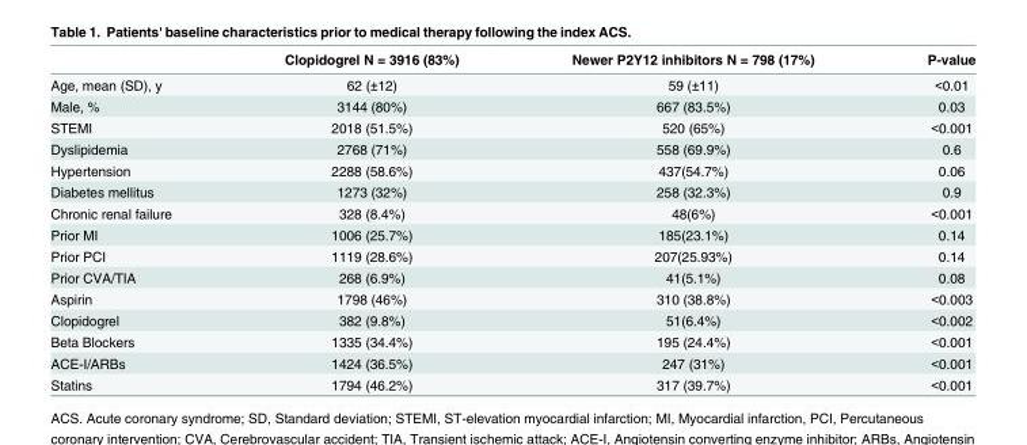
<table><thead><tr><td></td><td>Clopidogrel N = 3916 (83%)</td><td>Newer P2Y12 inhibitors N = 798 (17%)</td><td>P-value</td></tr></thead><tbody><tr><td>Age, mean (SD), y</td><td>62 (±12)</td><td>59 (±11)</td><td>&lt;0.01</td></tr><tr><td>Male, %</td><td>3144 (80%)</td><td>667 (83.5%)</td><td>0.03</td></tr><tr><td>STEMI</td><td>2018 (51.5%)</td><td>520 (65%)</td><td>&lt;0.001</td></tr><tr><td>Dyslipidemia</td><td>2768 (71%)</td><td>558 (69.9%)</td><td>0.6</td></tr><tr><td>Hypertension</td><td>2288 (58.6%)</td><td>437(54.7%)</td><td>0.06</td></tr><tr><td>Diabetes mellitus</td><td>1273 (32%)</td><td>258 (32.3%)</td><td>0.9</td></tr><tr><td>Chronic renal failure</td><td>328 (8.4%)</td><td>48(6%)</td><td>&lt;0.001</td></tr><tr><td>Prior MI</td><td>1006 (25.7%)</td><td>185(23.1%)</td><td>0.14</td></tr><tr><td>Prior PCI</td><td>1119 (28.6%)</td><td>207(25.93%)</td><td>0.14</td></tr><tr><td>Prior CVA/TIA</td><td>268 (6.9%)</td><td>41(5.1%)</td><td>0.08</td></tr><tr><td>Aspirin</td><td>1798 (46%)</td><td>310 (38.8%)</td><td>&lt;0.003</td></tr><tr><td>Clopidogrel</td><td>382 (9.8%)</td><td>51(6.4%)</td><td>&lt;0.002</td></tr><tr><td>Beta Blockers</td><td>1335 (34.4%)</td><td>195 (24.4%)</td><td>&lt;0.001</td></tr><tr><td>ACE-I/ARBs</td><td>1424 (36.5%)</td><td>247 (31%)</td><td>&lt;0.001</td></tr><tr><td>Statins</td><td>1794 (46.2%)</td><td>317 (39.7%)</td><td>&lt;0.001</td></tr></tbody></table>